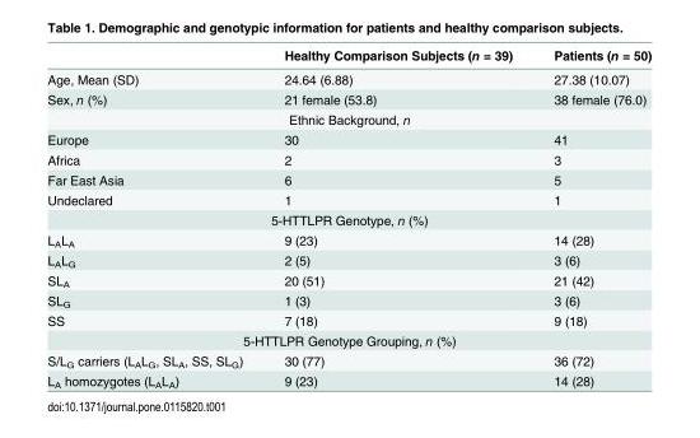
<table><thead><tr><td></td><td>Healthy Comparison Subjects (n = 39)</td><td>Patients (n = 50)</td></tr></thead><tbody><tr><td>Age, Mean (SD)</td><td>24.64 (6.88)</td><td>27.38 (10.07)</td></tr><tr><td>Sex, n (%)</td><td>21 female (53.8)</td><td>38 female (76.0)</td></tr><tr><td colspan="3">Ethnic Background, n</td></tr><tr><td>Europe</td><td>30</td><td>41</td></tr><tr><td>Africa</td><td>2</td><td>3</td></tr><tr><td>Far East Asia</td><td>6</td><td>5</td></tr><tr><td>Undeclared</td><td>1</td><td>1</td></tr><tr><td colspan="3">5-HTTLPR Genotype, n (%)</td></tr><tr><td>L<sub>A</sub>L<sub>A</sub></td><td>9 (23)</td><td>14 (28)</td></tr><tr><td>L<sub>A</sub>L<sub>G</sub></td><td>2 (5)</td><td>3 (6)</td></tr><tr><td>SL<sub>A</sub></td><td>20 (51)</td><td>21 (42)</td></tr><tr><td>SL<sub>G</sub></td><td>1 (3)</td><td>3 (6)</td></tr><tr><td>SS</td><td>7 (18)</td><td>9 (18)</td></tr><tr><td colspan="3">5-HTTLPR Genotype Grouping, n (%)</td></tr><tr><td>S/L<sub>G</sub> carriers (L<sub>A</sub>L<sub>G</sub>, SL<sub>A</sub>, SS, SL<sub>G</sub>)</td><td>30 (77)</td><td>36 (72)</td></tr><tr><td>L<sub>A</sub> homozygotes (L<sub>A</sub>L<sub>A</sub>)</td><td>9 (23)</td><td>14 (28)</td></tr></tbody></table>